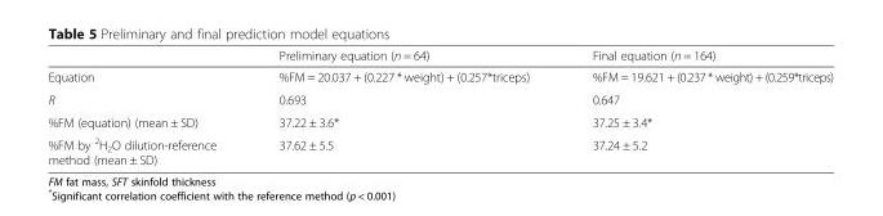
<table><thead><tr><td></td><td>Preliminary equation (n = 64)</td><td>Final equation (n = 164)</td></tr></thead><tbody><tr><td>Equation</td><td>%FM = 20.037 + (0.227 * weight) + (0.257*triceps)</td><td>%FM = 19.621 + (0.237 * weight) + (0.259*triceps)</td></tr><tr><td>R</td><td>0.693</td><td>0.647</td></tr><tr><td>%FM (equation) (mean ± SD)</td><td>37.22 ± 3.6*</td><td>37.25 ± 3.4*</td></tr><tr><td>%FM by <sup>2</sup>H<sub>2</sub>O dilution-reference method (mean ± SD)</td><td>37.62 ± 5.5</td><td>37.24 ± 5.2</td></tr></tbody></table>